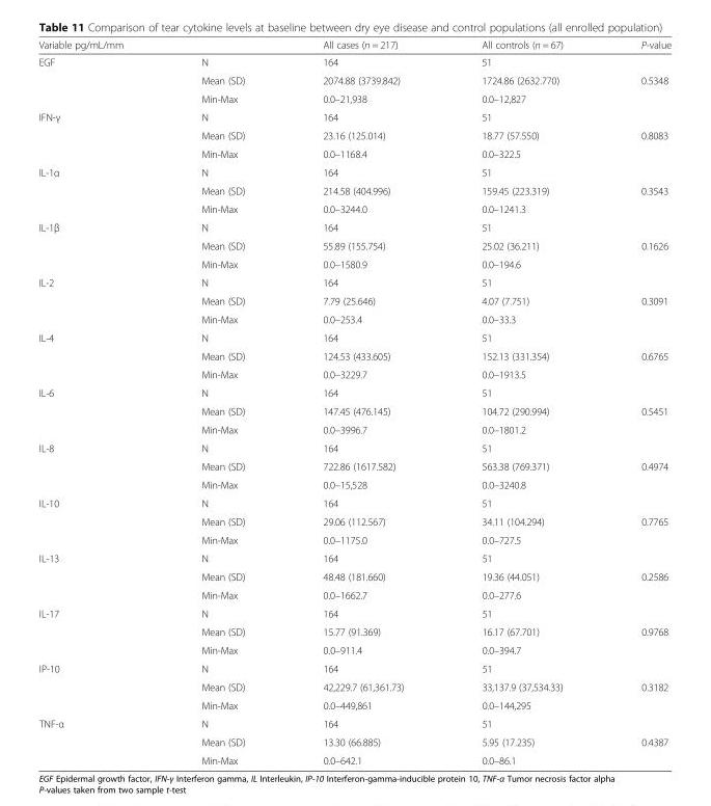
<table><thead><tr><td>Variable pg/mL/mm</td><td></td><td>All cases (n = 217)</td><td>All controls (n = 67)</td><td>P-value</td></tr></thead><tbody><tr><td rowspan="3">EGF</td><td>N</td><td>164</td><td>51</td><td></td></tr><tr><td>Mean (SD)</td><td>2074.88 (3739.842)</td><td>1724.86 (2632.770)</td><td>0.5348</td></tr><tr><td>Min-Max</td><td>0.0–21,938</td><td>0.0–12,827</td><td></td></tr><tr><td rowspan="3">IFN-γ</td><td>N</td><td>164</td><td>51</td><td></td></tr><tr><td>Mean (SD)</td><td>23.16 (125.014)</td><td>18.77 (57.550)</td><td>0.8083</td></tr><tr><td>Min-Max</td><td>0.0–1168.4</td><td>0.0–322.5</td><td></td></tr><tr><td rowspan="3">IL-1α</td><td>N</td><td>164</td><td>51</td><td></td></tr><tr><td>Mean (SD)</td><td>214.58 (404.996)</td><td>159.45 (223.319)</td><td>0.3543</td></tr><tr><td>Min-Max</td><td>0.0–3244.0</td><td>0.0–1241.3</td><td></td></tr><tr><td rowspan="3">IL-1β</td><td>N</td><td>164</td><td>51</td><td></td></tr><tr><td>Mean (SD)</td><td>55.89 (155.754)</td><td>25.02 (36.211)</td><td>0.1626</td></tr><tr><td>Min-Max</td><td>0.0–1580.9</td><td>0.0–194.6</td><td></td></tr><tr><td rowspan="3">IL-2</td><td>N</td><td>164</td><td>51</td><td></td></tr><tr><td>Mean (SD)</td><td>7.79 (25.646)</td><td>4.07 (7.751)</td><td>0.3091</td></tr><tr><td>Min-Max</td><td>0.0–253.4</td><td>0.0–33.3</td><td></td></tr><tr><td rowspan="3">IL-4</td><td>N</td><td>164</td><td>51</td><td></td></tr><tr><td>Mean (SD)</td><td>124.53 (433.605)</td><td>152.13 (331.354)</td><td>0.6765</td></tr><tr><td>Min-Max</td><td>0.0–3229.7</td><td>0.0–1913.5</td><td></td></tr><tr><td rowspan="3">IL-6</td><td>N</td><td>164</td><td>51</td><td></td></tr><tr><td>Mean (SD)</td><td>147.45 (476.145)</td><td>104.72 (290.994)</td><td>0.5451</td></tr><tr><td>Min-Max</td><td>0.0–3996.7</td><td>0.0–1801.2</td><td></td></tr><tr><td rowspan="3">IL-8</td><td>N</td><td>164</td><td>51</td><td></td></tr><tr><td>Mean (SD)</td><td>722.86 (1617.582)</td><td>563.38 (769.371)</td><td>0.4974</td></tr><tr><td>Min-Max</td><td>0.0–15,528</td><td>0.0–3240.8</td><td></td></tr><tr><td rowspan="3">IL-10</td><td>N</td><td>164</td><td>51</td><td></td></tr><tr><td>Mean (SD)</td><td>29.06 (112.567)</td><td>34.11 (104.294)</td><td>0.7765</td></tr><tr><td>Min-Max</td><td>0.0–1175.0</td><td>0.0–727.5</td><td></td></tr><tr><td rowspan="3">IL-13</td><td>N</td><td>164</td><td>51</td><td></td></tr><tr><td>Mean (SD)</td><td>48.48 (181.660)</td><td>19.36 (44.051)</td><td>0.2586</td></tr><tr><td>Min-Max</td><td>0.0–1662.7</td><td>0.0–277.6</td><td></td></tr><tr><td rowspan="3">IL-17</td><td>N</td><td>164</td><td>51</td><td></td></tr><tr><td>Mean (SD)</td><td>15.77 (91.369)</td><td>16.17 (67.701)</td><td>0.9768</td></tr><tr><td>Min-Max</td><td>0.0–911.4</td><td>0.0–394.7</td><td></td></tr><tr><td rowspan="3">IP-10</td><td>N</td><td>164</td><td>51</td><td></td></tr><tr><td>Mean (SD)</td><td>42,229.7 (61,361.73)</td><td>33,137.9 (37,534.33)</td><td>0.3182</td></tr><tr><td>Min-Max</td><td>0.0–449,861</td><td>0.0–144,295</td><td></td></tr><tr><td rowspan="3">TNF-α</td><td>N</td><td>164</td><td>51</td><td></td></tr><tr><td>Mean (SD)</td><td>13.30 (66.885)</td><td>5.95 (17.235)</td><td>0.4387</td></tr><tr><td>Min-Max</td><td>0.0–642.1</td><td>0.0–86.1</td><td></td></tr></tbody></table>